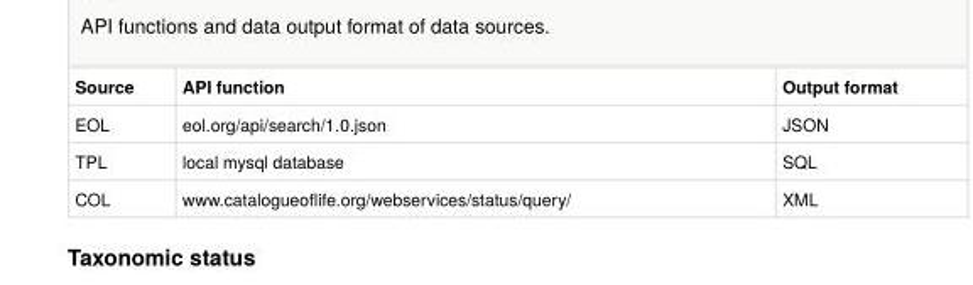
<table><tbody><tr><td>Source</td><td>API function</td><td>Output format</td></tr><tr><td>EOL</td><td>eol.org/api/search/1.0.json</td><td>JSON</td></tr><tr><td>TPL</td><td>local mysql database</td><td>SQL</td></tr><tr><td>COL</td><td>www.catalogueoflife.org/webservices/status/query/</td><td>XML</td></tr></tbody></table>